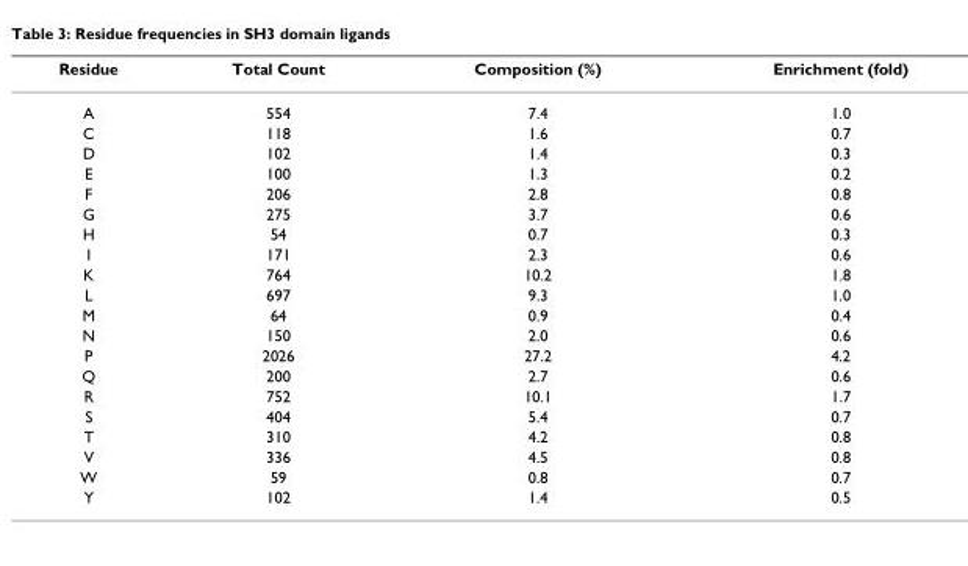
<table><thead><tr><td>Residue</td><td>Total Count</td><td>Composition (%)</td><td>Enrichment (fold)</td></tr></thead><tbody><tr><td>A</td><td>554</td><td>7.4</td><td>1.0</td></tr><tr><td>C</td><td>118</td><td>1.6</td><td>0.7</td></tr><tr><td>D</td><td>102</td><td>1.4</td><td>0.3</td></tr><tr><td>E</td><td>100</td><td>1.3</td><td>0.2</td></tr><tr><td>F</td><td>206</td><td>2.8</td><td>0.8</td></tr><tr><td>G</td><td>275</td><td>3.7</td><td>0.6</td></tr><tr><td>H</td><td>54</td><td>0.7</td><td>0.3</td></tr><tr><td>I</td><td>171</td><td>2.3</td><td>0.6</td></tr><tr><td>K</td><td>764</td><td>10.2</td><td>1.8</td></tr><tr><td>L</td><td>697</td><td>9.3</td><td>1.0</td></tr><tr><td>M</td><td>64</td><td>0.9</td><td>0.4</td></tr><tr><td>N</td><td>150</td><td>2.0</td><td>0.6</td></tr><tr><td>P</td><td>2026</td><td>27.2</td><td>4.2</td></tr><tr><td>Q</td><td>200</td><td>2.7</td><td>0.6</td></tr><tr><td>R</td><td>752</td><td>10.1</td><td>1.7</td></tr><tr><td>S</td><td>404</td><td>5.4</td><td>0.7</td></tr><tr><td>T</td><td>310</td><td>4.2</td><td>0.8</td></tr><tr><td>V</td><td>336</td><td>4.5</td><td>0.8</td></tr><tr><td>W</td><td>59</td><td>0.8</td><td>0.7</td></tr><tr><td>Y</td><td>102</td><td>1.4</td><td>0.5</td></tr></tbody></table>